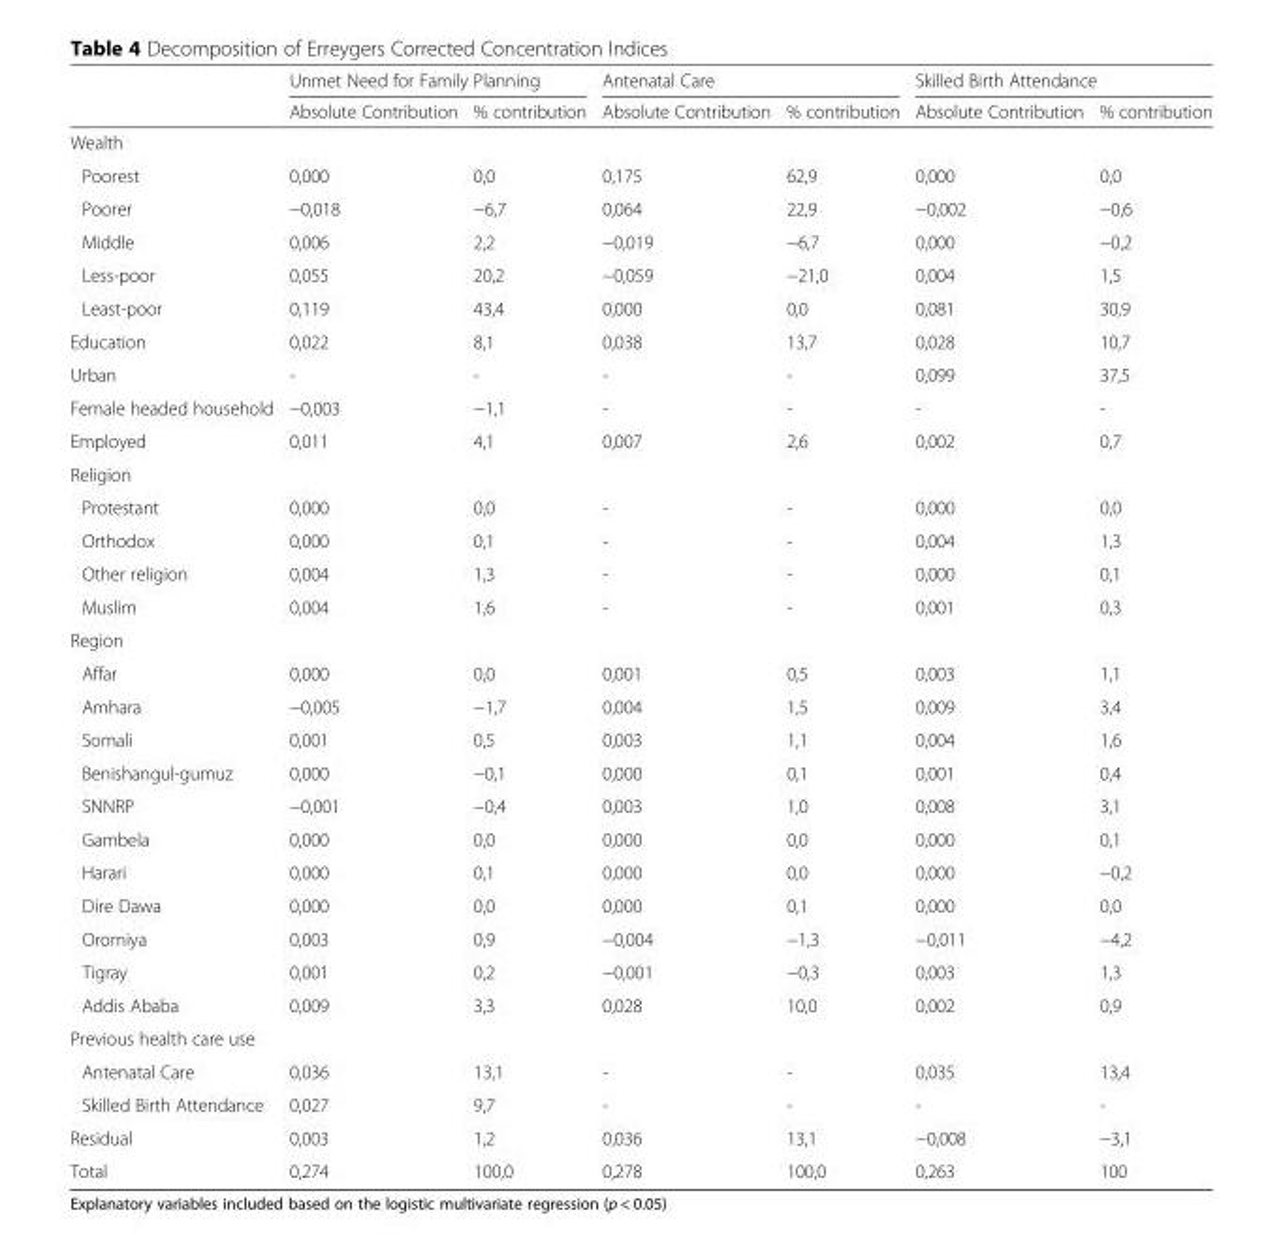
<table><thead><tr><td rowspan="2"></td><td colspan="2">Unmet Need for Family Planning</td><td colspan="2">Antenatal Care</td><td colspan="2">Skilled Birth Attendance</td></tr><tr><td>Absolute Contribution</td><td>% contribution</td><td>Absolute Contribution</td><td>% contribution</td><td>Absolute Contribution</td><td>% contribution</td></tr></thead><tbody><tr><td colspan="7">Wealth</td></tr><tr><td>Poorest</td><td>0,000</td><td>0,0</td><td>0,175</td><td>62,9</td><td>0,000</td><td>0,0</td></tr><tr><td>Poorer</td><td>−0,018</td><td>−6,7</td><td>0,064</td><td>22,9</td><td>−0,002</td><td>−0,6</td></tr><tr><td>Middle</td><td>0,006</td><td>2,2</td><td>−0,019</td><td>−6,7</td><td>0,000</td><td>−0,2</td></tr><tr><td>Less-poor</td><td>0,055</td><td>20,2</td><td>−0,059</td><td>−21,0</td><td>0,004</td><td>1,5</td></tr><tr><td>Least-poor</td><td>0,119</td><td>43,4</td><td>0,000</td><td>0,0</td><td>0,081</td><td>30,9</td></tr><tr><td>Education</td><td>0,022</td><td>8,1</td><td>0,038</td><td>13,7</td><td>0,028</td><td>10,7</td></tr><tr><td>Urban</td><td>-</td><td>-</td><td>-</td><td>-</td><td>0,099</td><td>37,5</td></tr><tr><td>Female headed household</td><td>−0,003</td><td>−1,1</td><td>-</td><td>-</td><td>-</td><td>-</td></tr><tr><td>Employed</td><td>0,011</td><td>4,1</td><td>0,007</td><td>2,6</td><td>0,002</td><td>0,7</td></tr><tr><td colspan="7">Religion</td></tr><tr><td>Protestant</td><td>0,000</td><td>0,0</td><td>-</td><td>-</td><td>0,000</td><td>0,0</td></tr><tr><td>Orthodox</td><td>0,000</td><td>0,1</td><td>-</td><td>-</td><td>0,004</td><td>1,3</td></tr><tr><td>Other religion</td><td>0,004</td><td>1,3</td><td>-</td><td>-</td><td>0,000</td><td>0,1</td></tr><tr><td>Muslim</td><td>0,004</td><td>1,6</td><td>-</td><td>-</td><td>0,001</td><td>0,3</td></tr><tr><td colspan="7">Region</td></tr><tr><td>Affar</td><td>0,000</td><td>0,0</td><td>0,001</td><td>0,5</td><td>0,003</td><td>1,1</td></tr><tr><td>Amhara</td><td>−0,005</td><td>−1,7</td><td>0,004</td><td>1,5</td><td>0,009</td><td>3,4</td></tr><tr><td>Somali</td><td>0,001</td><td>0,5</td><td>0,003</td><td>1,1</td><td>0,004</td><td>1,6</td></tr><tr><td>Benishangul-gumuz</td><td>0,000</td><td>−0,1</td><td>0,000</td><td>0,1</td><td>0,001</td><td>0,4</td></tr><tr><td>SNNRP</td><td>−0,001</td><td>−0,4</td><td>0,003</td><td>1,0</td><td>0,008</td><td>3,1</td></tr><tr><td>Gambela</td><td>0,000</td><td>0,0</td><td>0,000</td><td>0,0</td><td>0,000</td><td>0,1</td></tr><tr><td>Harari</td><td>0,000</td><td>0,1</td><td>0,000</td><td>0,0</td><td>0,000</td><td>−0,2</td></tr><tr><td>Dire Dawa</td><td>0,000</td><td>0,0</td><td>0,000</td><td>0,1</td><td>0,000</td><td>0,0</td></tr><tr><td>Oromiya</td><td>0,003</td><td>0,9</td><td>−0,004</td><td>−1,3</td><td>−0,011</td><td>−4,2</td></tr><tr><td>Tigray</td><td>0,001</td><td>0,2</td><td>−0,001</td><td>−0,3</td><td>0,003</td><td>1,3</td></tr><tr><td>Addis Ababa</td><td>0,009</td><td>3,3</td><td>0,028</td><td>10,0</td><td>0,002</td><td>0,9</td></tr><tr><td colspan="7">Previous health care use</td></tr><tr><td>Antenatal Care</td><td>0,036</td><td>13,1</td><td>-</td><td>-</td><td>0,035</td><td>13,4</td></tr><tr><td>Skilled Birth Attendance</td><td>0,027</td><td>9,7</td><td>-</td><td>-</td><td>-</td><td>-</td></tr><tr><td>Residual</td><td>0,003</td><td>1,2</td><td>0,036</td><td>13,1</td><td>−0,008</td><td>−3,1</td></tr><tr><td>Total</td><td>0,274</td><td>100,0</td><td>0,278</td><td>100,0</td><td>0,263</td><td>100</td></tr></tbody></table>